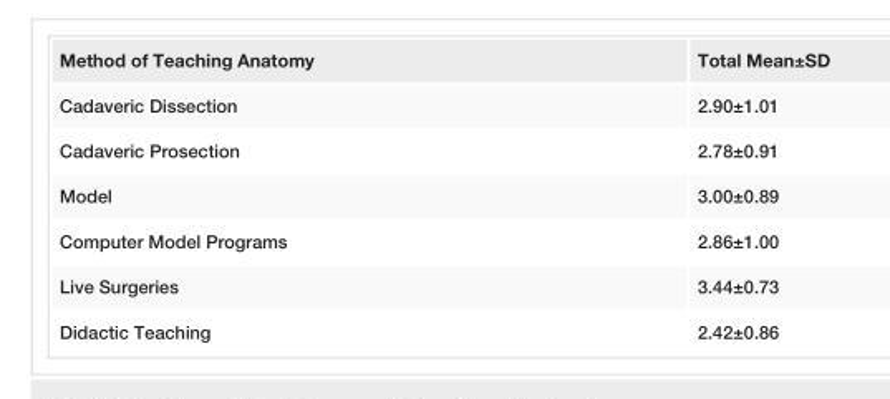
<table><tbody><tr><td>Method of Teaching Anatomy</td><td>Total Mean±SD</td></tr><tr><td>Cadaveric Dissection</td><td>2.90±1.01</td></tr><tr><td>Cadaveric Prosection</td><td>2.78±0.91</td></tr><tr><td>Model</td><td>3.00±0.89</td></tr><tr><td>Computer Model Programs</td><td>2.86±1.00</td></tr><tr><td>Live Surgeries</td><td>3.44±0.73</td></tr><tr><td>Didactic Teaching</td><td>2.42±0.86</td></tr></tbody></table>